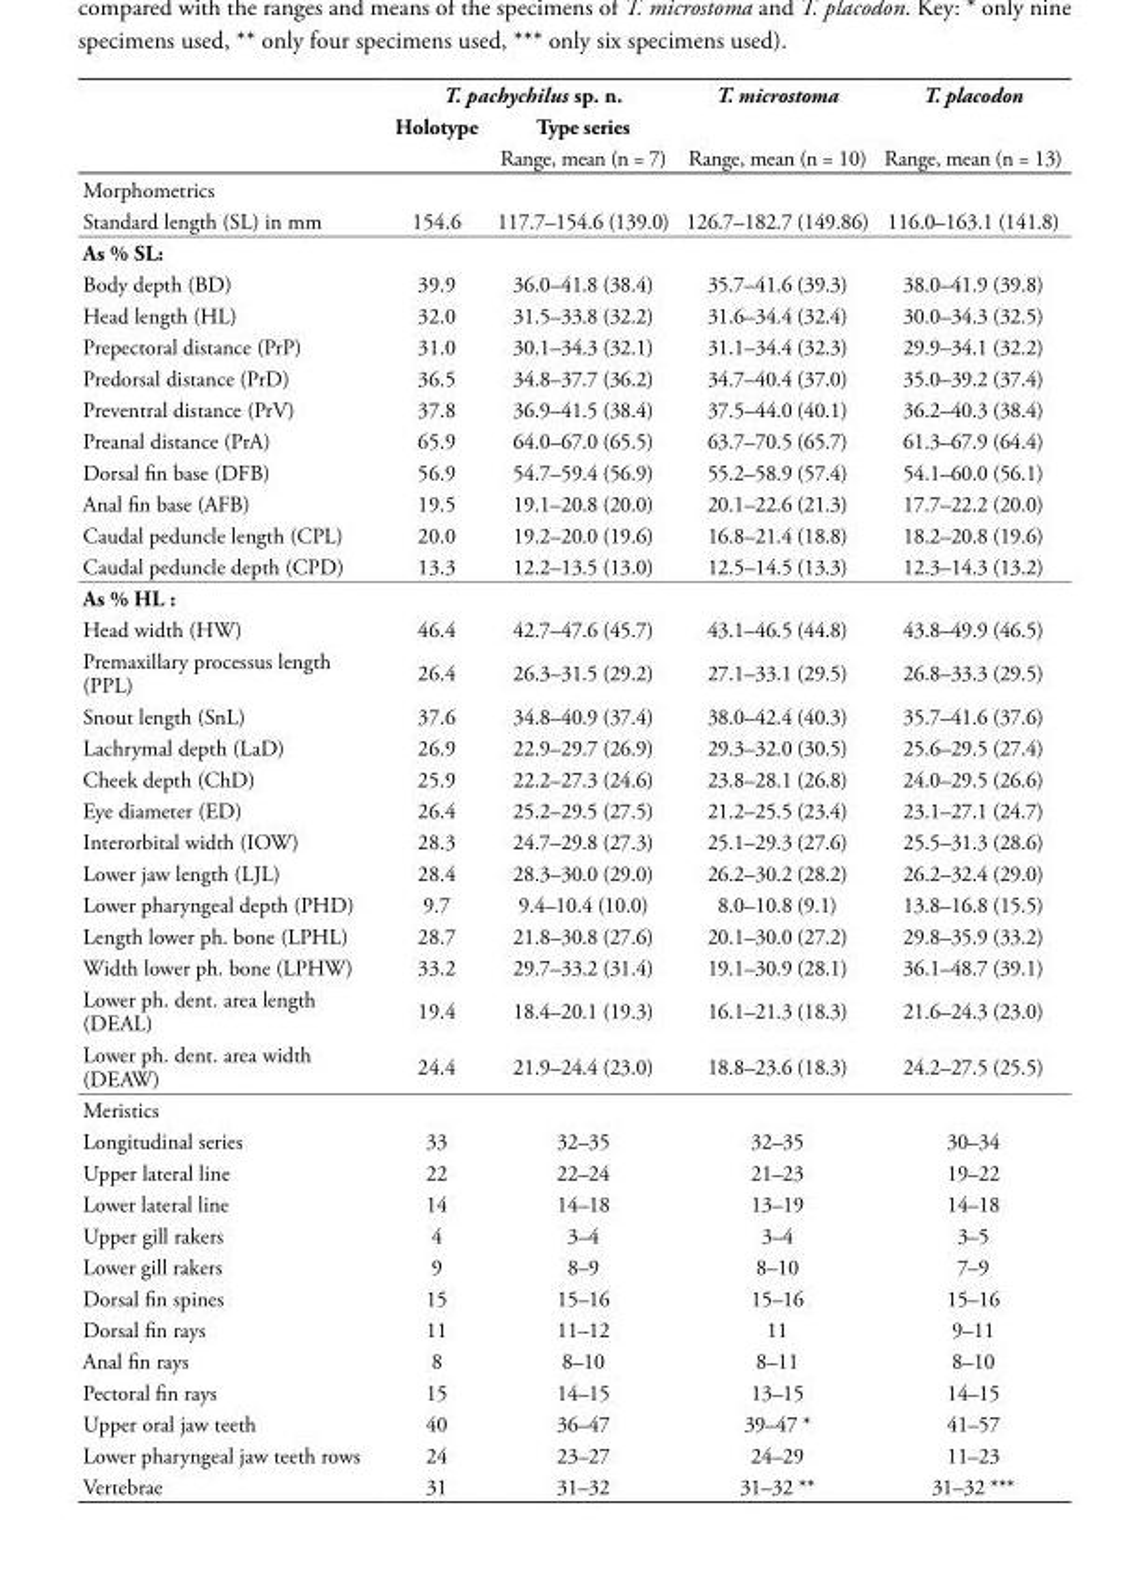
<table><thead><tr><td rowspan="3"></td><td colspan="2">T. pachychilus sp. n.</td><td rowspan="3">T. microstoma Range, mean (n = 10)</td><td rowspan="3">T. placodon Range, mean (n = 13)</td></tr><tr><td rowspan="2">Holotype</td><td rowspan="2">Type series Range, mean (n = 7)</td></tr><tr></tr></thead><tbody><tr><td colspan="5">Morphometrics</td></tr><tr><td>Standard length (SL) in mm</td><td>154.6</td><td>117.7–154.6 (139.0)</td><td>126.7–182.7 (149.86)</td><td>116.0–163.1 (141.8)</td></tr><tr><td colspan="5">As % SL:</td></tr><tr><td>Body depth (BD)</td><td>39.9</td><td>36.0–41.8 (38.4)</td><td>35.7–41.6 (39.3)</td><td>38.0–41.9 (39.8)</td></tr><tr><td>Head length (HL)</td><td>32.0</td><td>31.5–33.8 (32.2)</td><td>31.6–34.4 (32.4)</td><td>30.0–34.3 (32.5)</td></tr><tr><td>Prepectoral distance (PrP)</td><td>31.0</td><td>30.1–34.3 (32.1)</td><td>31.1–34.4 (32.3)</td><td>29.9–34.1 (32.2)</td></tr><tr><td>Predorsal distance (PrD)</td><td>36.5</td><td>34.8–37.7 (36.2)</td><td>34.7–40.4 (37.0)</td><td>35.0–39.2 (37.4)</td></tr><tr><td>Preventral distance (PrV)</td><td>37.8</td><td>36.9–41.5 (38.4)</td><td>37.5–44.0 (40.1)</td><td>36.2–40.3 (38.4)</td></tr><tr><td>Preanal distance (PrA)</td><td>65.9</td><td>64.0–67.0 (65.5)</td><td>63.7–70.5 (65.7)</td><td>61.3–67.9 (64.4)</td></tr><tr><td>Dorsal fin base (DFB)</td><td>56.9</td><td>54.7–59.4 (56.9)</td><td>55.2–58.9 (57.4)</td><td>54.1–60.0 (56.1)</td></tr><tr><td>Anal fin base (AFB)</td><td>19.5</td><td>19.1–20.8 (20.0)</td><td>20.1–22.6 (21.3)</td><td>17.7–22.2 (20.0)</td></tr><tr><td>Caudal peduncle length (CPL)</td><td>20.0</td><td>19.2–20.0 (19.6)</td><td>16.8–21.4 (18.8)</td><td>18.2–20.8 (19.6)</td></tr><tr><td>Caudal peduncle depth (CPD)</td><td>13.3</td><td>12.2–13.5 (13.0)</td><td>12.5–14.5 (13.3)</td><td>12.3–14.3 (13.2)</td></tr><tr><td colspan="5">As % HL :</td></tr><tr><td>Head width (HW)</td><td>46.4</td><td>42.7–47.6 (45.7)</td><td>43.1–46.5 (44.8)</td><td>43.8–49.9 (46.5)</td></tr><tr><td>Premaxillary processus length (PPL)</td><td>26.4</td><td>26.3–31.5 (29.2)</td><td>27.1–33.1 (29.5)</td><td>26.8–33.3 (29.5)</td></tr><tr><td>Snout length (SnL)</td><td>37.6</td><td>34.8–40.9 (37.4)</td><td>38.0–42.4 (40.3)</td><td>35.7–41.6 (37.6)</td></tr><tr><td>Lachrymal depth (LaD)</td><td>26.9</td><td>22.9–29.7 (26.9)</td><td>29.3–32.0 (30.5)</td><td>25.6–29.5 (27.4)</td></tr><tr><td>Cheek depth (ChD)</td><td>25.9</td><td>22.2–27.3 (24.6)</td><td>23.8–28.1 (26.8)</td><td>24.0–29.5 (26.6)</td></tr><tr><td>Eye diameter (ED)</td><td>26.4</td><td>25.2–29.5 (27.5)</td><td>21.2–25.5 (23.4)</td><td>23.1–27.1 (24.7)</td></tr><tr><td>Interorbital width (IOW)</td><td>28.3</td><td>24.7–29.8 (27.3)</td><td>25.1–29.3 (27.6)</td><td>25.5–31.3 (28.6)</td></tr><tr><td>Lower jaw length (LJL)</td><td>28.4</td><td>28.3–30.0 (29.0)</td><td>26.2–30.2 (28.2)</td><td>26.2–32.4 (29.0)</td></tr><tr><td>Lower pharyngeal depth (PHD)</td><td>9.7</td><td>9.4–10.4 (10.0)</td><td>8.0–10.8 (9.1)</td><td>13.8–16.8 (15.5)</td></tr><tr><td>Length lower ph. bone (LPHL)</td><td>28.7</td><td>21.8–30.8 (27.6)</td><td>20.1–30.0 (27.2)</td><td>29.8–35.9 (33.2)</td></tr><tr><td>Width lower ph. bone (LPHW)</td><td>33.2</td><td>29.7–33.2 (31.4)</td><td>19.1–30.9 (28.1)</td><td>36.1–48.7 (39.1)</td></tr><tr><td>Lower ph. dent. area length (DEAL)</td><td>19.4</td><td>18.4–20.1 (19.3)</td><td>16.1–21.3 (18.3)</td><td>21.6–24.3 (23.0)</td></tr><tr><td>Lower ph. dent. area width (DEAW)</td><td>24.4</td><td>21.9–24.4 (23.0)</td><td>18.8–23.6 (18.3)</td><td>24.2–27.5 (25.5)</td></tr><tr><td colspan="5">Meristics</td></tr><tr><td>Longitudinal series</td><td>33</td><td>32–35</td><td>32–35</td><td>30–34</td></tr><tr><td>Upper lateral line</td><td>22</td><td>22–24</td><td>21–23</td><td>19–22</td></tr><tr><td>Lower lateral line</td><td>14</td><td>14–18</td><td>13–19</td><td>14–18</td></tr><tr><td>Upper gill rakers</td><td>4</td><td>3–4</td><td>3–4</td><td>3–5</td></tr><tr><td>Lower gill rakers</td><td>9</td><td>8–9</td><td>8–10</td><td>7–9</td></tr><tr><td>Dorsal fin spines</td><td>15</td><td>15–16</td><td>15–16</td><td>15–16</td></tr><tr><td>Dorsal fin rays</td><td>11</td><td>11–12</td><td>11</td><td>9–11</td></tr><tr><td>Anal fin rays</td><td>8</td><td>8–10</td><td>8–11</td><td>8–10</td></tr><tr><td>Pectoral fin rays</td><td>15</td><td>14–15</td><td>13–15</td><td>14–15</td></tr><tr><td>Upper oral jaw teeth</td><td>40</td><td>36–47</td><td>39–47 *</td><td>41–57</td></tr><tr><td>Lower pharyngeal jaw teeth rows</td><td>24</td><td>23–27</td><td>24–29</td><td>11–23</td></tr><tr><td>Vertebrae</td><td>31</td><td>31–32</td><td>31–32 **</td><td>31–32 ***</td></tr></tbody></table>